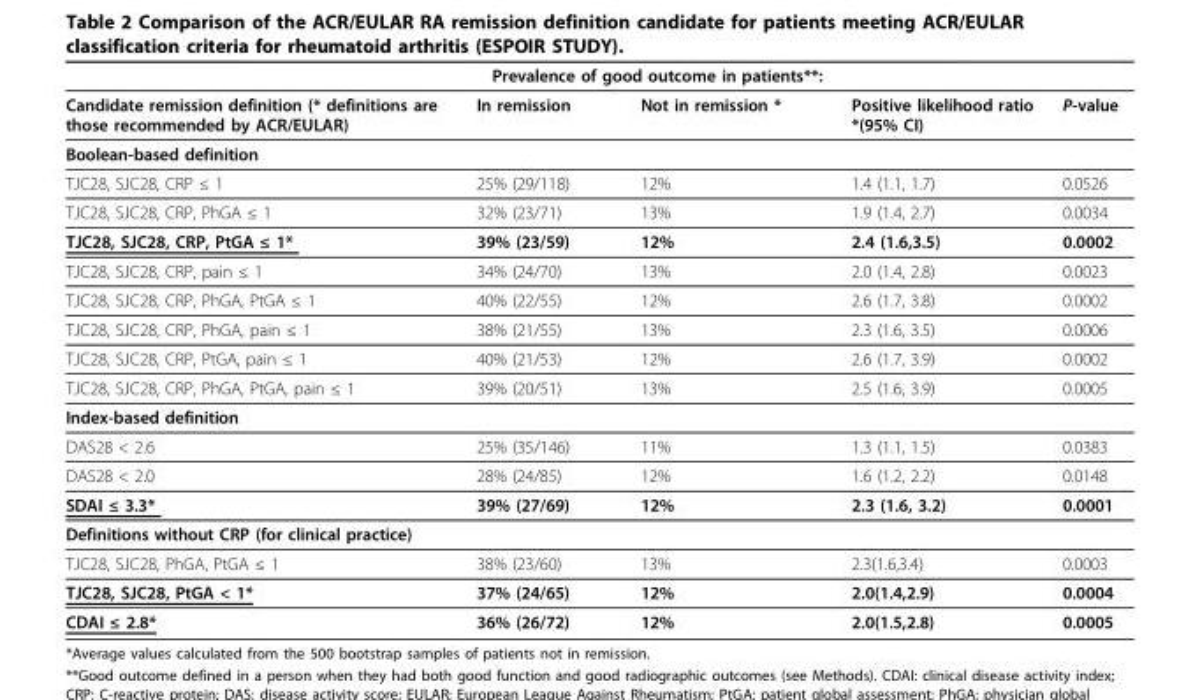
<table><thead><tr><td rowspan="2">Candidate remission definition (* definitions are those recommended by ACR/EULAR)</td><td colspan="2">Prevalence of good outcome in patients**:</td><td rowspan="2">Positive likelihood ratio *(95% CI)</td><td rowspan="2">P-value</td></tr><tr><td>In remission</td><td>Not in remission *</td></tr></thead><tbody><tr><td colspan="5">Boolean-based definition</td></tr><tr><td>TJC28, SJC28, CRP ≤ 1</td><td>25% (29/118)</td><td>12%</td><td>1.4 (1.1, 1.7)</td><td>0.0526</td></tr><tr><td>TJC28, SJC28, CRP, PhGA ≤ 1</td><td>32% (23/71)</td><td>13%</td><td>1.9 (1.4, 2.7)</td><td>0.0034</td></tr><tr><td>TJC28, SJC28, CRP, PtGA ≤ 1*</td><td>39% (23/59)</td><td>12%</td><td>2.4 (1.6,3.5)</td><td>0.0002</td></tr><tr><td>TJC28, SJC28, CRP, pain ≤ 1</td><td>34% (24/70)</td><td>13%</td><td>2.0 (1.4, 2.8)</td><td>0.0023</td></tr><tr><td>TJC28, SJC28, CRP, PhGA, PtGA ≤ 1</td><td>40% (22/55)</td><td>12%</td><td>2.6 (1.7, 3.8)</td><td>0.0002</td></tr><tr><td>TJC28, SJC28, CRP, PhGA, pain ≤ 1</td><td>38% (21/55)</td><td>13%</td><td>2.3 (1.6, 3.5)</td><td>0.0006</td></tr><tr><td>TJC28, SJC28, CRP, PtGA, pain ≤ 1</td><td>40% (21/53)</td><td>12%</td><td>2.6 (1.7, 3.9)</td><td>0.0002</td></tr><tr><td>TJC28, SJC28, CRP, PhGA, PtGA, pain ≤ 1</td><td>39% (20/51)</td><td>13%</td><td>2.5 (1.6, 3.9)</td><td>0.0005</td></tr><tr><td colspan="5">Index-based definition</td></tr><tr><td>DAS28 &lt; 2.6</td><td>25% (35/146)</td><td>11%</td><td>1.3 (1.1, 1.5)</td><td>0.0383</td></tr><tr><td>DAS28 &lt; 2.0</td><td>28% (24/85)</td><td>12%</td><td>1.6 (1.2, 2.2)</td><td>0.0148</td></tr><tr><td>SDAI ≤ 3.3*</td><td>39% (27/69)</td><td>12%</td><td>2.3 (1.6, 3.2)</td><td>0.0001</td></tr><tr><td colspan="5">Definitions without CRP (for clinical practice)</td></tr><tr><td>TJC28, SJC28, PhGA, PtGA ≤ 1</td><td>38% (23/60)</td><td>13%</td><td>2.3(1.6,3.4)</td><td>0.0003</td></tr><tr><td>TJC28, SJC28, PtGA &lt; 1*</td><td>37% (24/65)</td><td>12%</td><td>2.0(1.4,2.9)</td><td>0.0004</td></tr><tr><td>CDAI ≤ 2.8*</td><td>36% (26/72)</td><td>12%</td><td>2.0(1.5,2.8)</td><td>0.0005</td></tr></tbody></table>